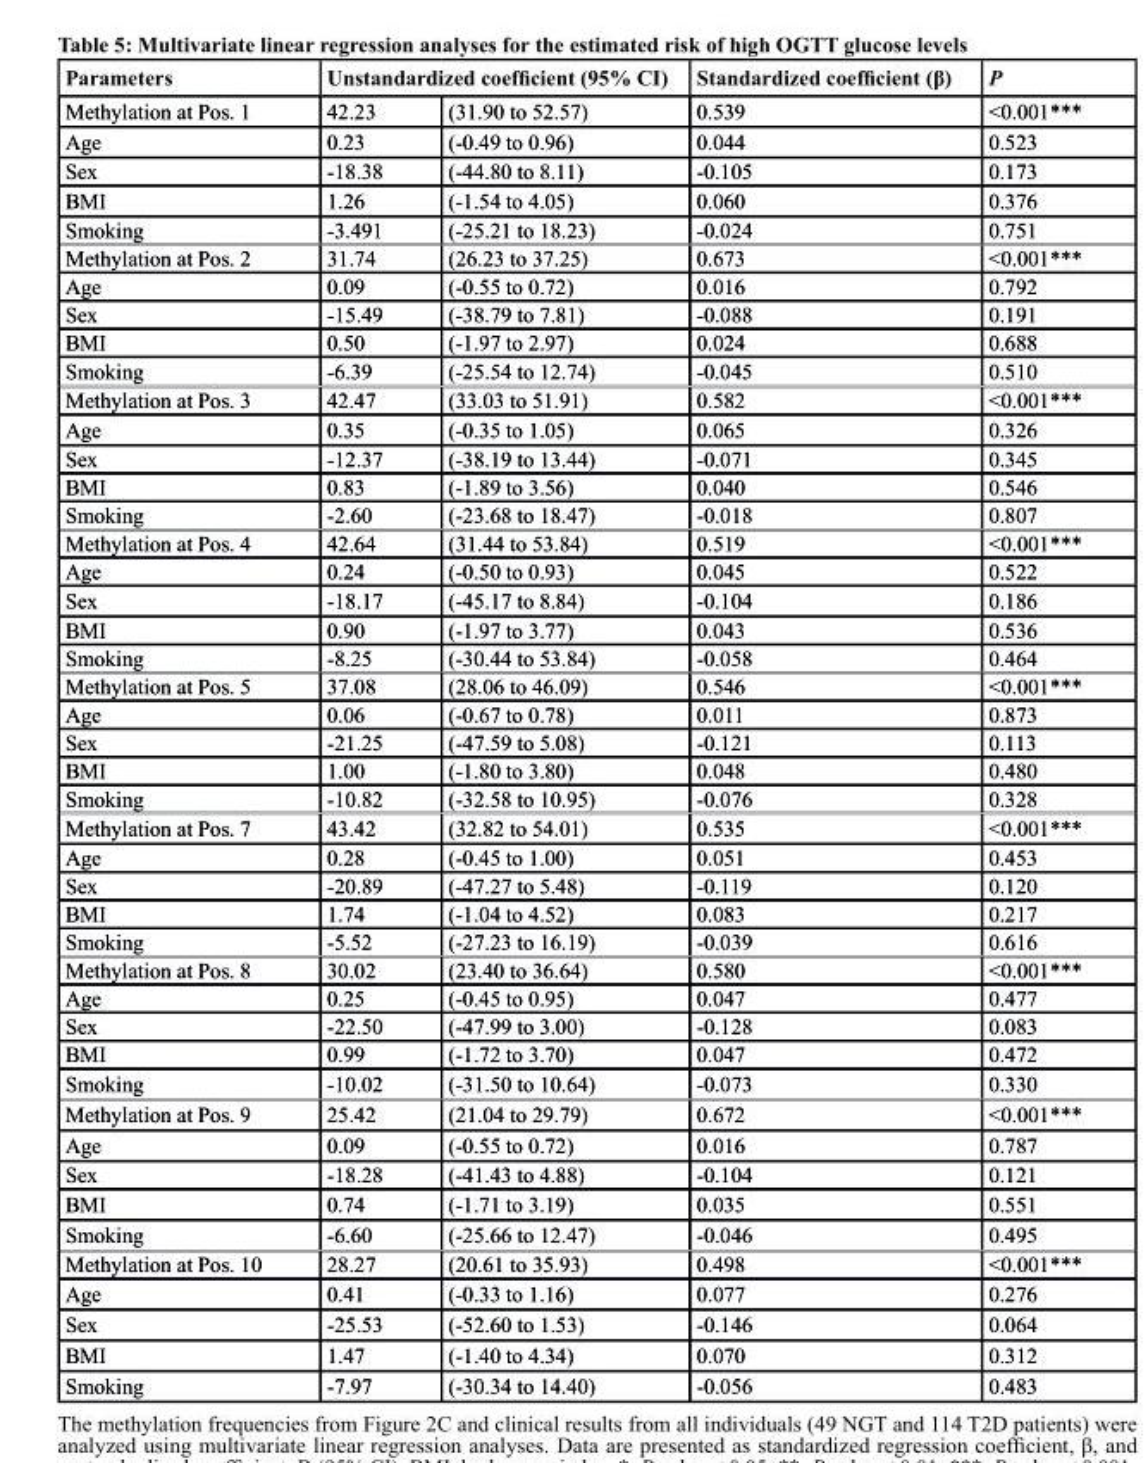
<table><thead><tr><td rowspan="2">Parameters Methylation at Pos. 1</td><td colspan="2">Unstandardized coefficient (95% CI)</td><td rowspan="2">Standardized coefficient (β) 0.539</td><td rowspan="2">P &lt;0.001***</td></tr><tr><td>42.23</td><td>(31.90 to 52.57)</td></tr></thead><tbody><tr><td>Age</td><td>0.23</td><td>(-0.49 to 0.96)</td><td>0.044</td><td>0.523</td></tr><tr><td>Sex</td><td>-18.38</td><td>(-44.80 to 8.11)</td><td>-0.105</td><td>0.173</td></tr><tr><td>BMI</td><td>1.26</td><td>(-1.54 to 4.05)</td><td>0.060</td><td>0.376</td></tr><tr><td>Smoking</td><td>-3.491</td><td>(-25.21 to 18.23)</td><td>-0.024</td><td>0.751</td></tr><tr><td>Methylation at Pos. 2</td><td>31.74</td><td>(26.23 to 37.25)</td><td>0.673</td><td>&lt;0.001***</td></tr><tr><td>Age</td><td>0.09</td><td>(-0.55 to 0.72)</td><td>0.016</td><td>0.792</td></tr><tr><td>Sex</td><td>-15.49</td><td>(-38.79 to 7.81)</td><td>-0.088</td><td>0.191</td></tr><tr><td>BMI</td><td>0.50</td><td>(-1.97 to 2.97)</td><td>0.024</td><td>0.688</td></tr><tr><td>Smoking</td><td>-6.39</td><td>(-25.54 to 12.74)</td><td>-0.045</td><td>0.510</td></tr><tr><td>Methylation at Pos. 3</td><td>42.47</td><td>(33.03 to 51.91)</td><td>0.582</td><td>&lt;0.001***</td></tr><tr><td>Age</td><td>0.35</td><td>(-0.35 to 1.05)</td><td>0.065</td><td>0.326</td></tr><tr><td>Sex</td><td>-12.37</td><td>(-38.19 to 13.44)</td><td>-0.071</td><td>0.345</td></tr><tr><td>BMI</td><td>0.83</td><td>(-1.89 to 3.56)</td><td>0.040</td><td>0.546</td></tr><tr><td>Smoking</td><td>-2.60</td><td>(-23.68 to 18.47)</td><td>-0.018</td><td>0.807</td></tr><tr><td>Methylation at Pos. 4</td><td>42.64</td><td>(31.44 to 53.84)</td><td>0.519</td><td>&lt;0.001***</td></tr><tr><td>Age</td><td>0.24</td><td>(-0.50 to 0.93)</td><td>0.045</td><td>0.522</td></tr><tr><td>Sex</td><td>-18.17</td><td>(-45.17 to 8.84)</td><td>-0.104</td><td>0.186</td></tr><tr><td>BMI</td><td>0.90</td><td>(-1.97 to 3.77)</td><td>0.043</td><td>0.536</td></tr><tr><td>Smoking</td><td>-8.25</td><td>(-30.44 to 53.84)</td><td>-0.058</td><td>0.464</td></tr><tr><td>Methylation at Pos. 5</td><td>37.08</td><td>(28.06 to 46.09)</td><td>0.546</td><td>&lt;0.001***</td></tr><tr><td>Age</td><td>0.06</td><td>(-0.67 to 0.78)</td><td>0.011</td><td>0.873</td></tr><tr><td>Sex</td><td>-21.25</td><td>(-47.59 to 5.08)</td><td>-0.121</td><td>0.113</td></tr><tr><td>BMI</td><td>1.00</td><td>(-1.80 to 3.80)</td><td>0.048</td><td>0.480</td></tr><tr><td>Smoking</td><td>-10.82</td><td>(-32.58 to 10.95)</td><td>-0.076</td><td>0.328</td></tr><tr><td>Methylation at Pos. 7</td><td>43.42</td><td>(32.82 to 54.01)</td><td>0.535</td><td>&lt;0.001***</td></tr><tr><td>Age</td><td>0.28</td><td>(-0.45 to 1.00)</td><td>0.051</td><td>0.453</td></tr><tr><td>Sex</td><td>-20.89</td><td>(-47.27 to 5.48)</td><td>-0.119</td><td>0.120</td></tr><tr><td>BMI</td><td>1.74</td><td>(-1.04 to 4.52)</td><td>0.083</td><td>0.217</td></tr><tr><td>Smoking</td><td>-5.52</td><td>(-27.23 to 16.19)</td><td>-0.039</td><td>0.616</td></tr><tr><td>Methylation at Pos. 8</td><td>30.02</td><td>(23.40 to 36.64)</td><td>0.580</td><td>&lt;0.001***</td></tr><tr><td>Age</td><td>0.25</td><td>(-0.45 to 0.95)</td><td>0.047</td><td>0.477</td></tr><tr><td>Sex</td><td>-22.50</td><td>(-47.99 to 3.00)</td><td>-0.128</td><td>0.083</td></tr><tr><td>BMI</td><td>0.99</td><td>(-1.72 to 3.70)</td><td>0.047</td><td>0.472</td></tr><tr><td>Smoking</td><td>-10.02</td><td>(-31.50 to 10.64)</td><td>-0.073</td><td>0.330</td></tr><tr><td>Methylation at Pos. 9</td><td>25.42</td><td>(21.04 to 29.79)</td><td>0.672</td><td>&lt;0.001***</td></tr><tr><td>Age</td><td>0.09</td><td>(-0.55 to 0.72)</td><td>0.016</td><td>0.787</td></tr><tr><td>Sex</td><td>-18.28</td><td>(-41.43 to 4.88)</td><td>-0.104</td><td>0.121</td></tr><tr><td>BMI</td><td>0.74</td><td>(-1.71 to 3.19)</td><td>0.035</td><td>0.551</td></tr><tr><td>Smoking</td><td>-6.60</td><td>(-25.66 to 12.47)</td><td>-0.046</td><td>0.495</td></tr><tr><td>Methylation at Pos. 10</td><td>28.27</td><td>(20.61 to 35.93)</td><td>0.498</td><td>&lt;0.001***</td></tr><tr><td>Age</td><td>0.41</td><td>(-0.33 to 1.16)</td><td>0.077</td><td>0.276</td></tr><tr><td>Sex</td><td>-25.53</td><td>(-52.60 to 1.53)</td><td>-0.146</td><td>0.064</td></tr><tr><td>BMI</td><td>1.47</td><td>(-1.40 to 4.34)</td><td>0.070</td><td>0.312</td></tr><tr><td>Smoking</td><td>-7.97</td><td>(-30.34 to 14.40)</td><td>-0.056</td><td>0.483</td></tr></tbody></table>